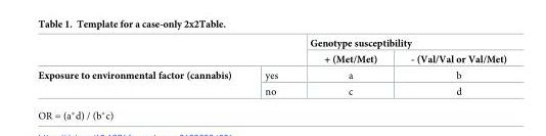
<table><thead><tr><td rowspan="2"></td><td rowspan="2"></td><td colspan="2">Genotype susceptibility</td></tr><tr><td>+ (Met/Met)</td><td>- (Val/Val or Val/Met)</td></tr></thead><tbody><tr><td rowspan="2">Exposure to environmental factor (cannabis)</td><td>yes</td><td>a</td><td>b</td></tr><tr><td>no</td><td>c</td><td>d</td></tr></tbody></table>